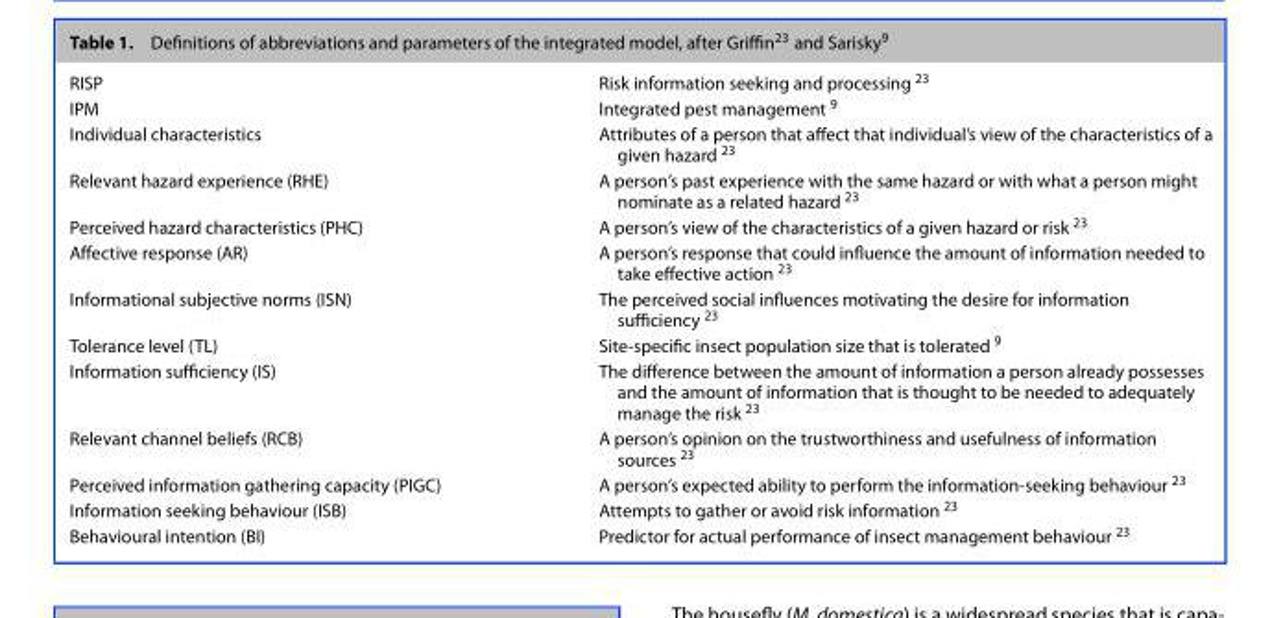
<table><tbody><tr><td>RISP</td><td>Risk information seeking and processing 23</td></tr><tr><td>IPM</td><td>Integrated pest management 9</td></tr><tr><td>Individual characteristics</td><td>Attributes of a person that affect that individual’s view of the characteristics of a given hazard 23</td></tr><tr><td>Relevant hazard experience (RHE)</td><td>A person’s past experience with the same hazard or with what a person might nominate as a related hazard 23</td></tr><tr><td>Perceived hazard characteristics (PHC)</td><td>A person’s view of the characteristics of a given hazard or risk 23</td></tr><tr><td>Affective response (AR)</td><td>A person’s response that could influence the amount of information needed to take effective action 23</td></tr><tr><td>Informational subjective norms (ISN)</td><td>The perceived social influences motivating the desire for information sufficiency 23</td></tr><tr><td>Tolerance level (TL)</td><td>Site-specific insect population size that is tolerated 9</td></tr><tr><td>Information sufficiency (IS)</td><td>The difference between the amount of information a person already possesses and the amount of information that is thought to be needed to adequately manage the risk 23</td></tr><tr><td>Relevant channel beliefs (RCB)</td><td>A person’s opinion on the trustworthiness and usefulness of information sources 23</td></tr><tr><td>Perceived information gathering capacity (PIGC)</td><td>A person’s expected ability to perform the information-seeking behaviour 23</td></tr><tr><td>Information seeking behaviour (ISB)</td><td>Attempts to gather or avoid risk information 23</td></tr><tr><td>Behavioural intention (BI)</td><td>Predictor for actual performance of insect management behaviour 23</td></tr></tbody></table>